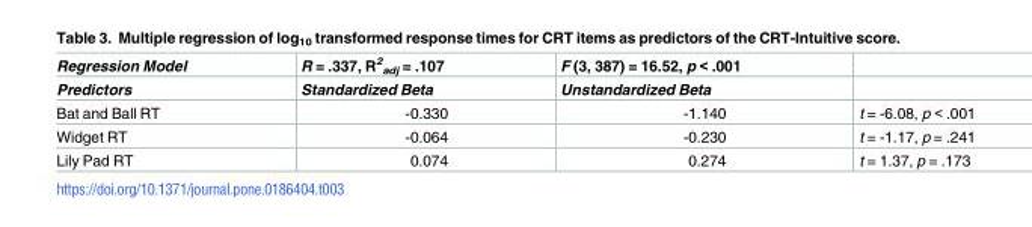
<table><thead><tr><td rowspan="2">Regression Model Predictors</td><td rowspan="2">R = .337, R<sup>2</sup> <sub>adj</sub> = .107 Standardized Beta</td><td rowspan="2">F (3, 387) = 16.52, p &lt; .001 Unstandardized Beta</td><td rowspan="2"></td></tr><tr></tr></thead><tbody><tr><td>Bat and Ball RT</td><td>-0.330</td><td>-1.140</td><td>t = -6.08, p &lt; .001</td></tr><tr><td>Widget RT</td><td>-0.064</td><td>-0.230</td><td>t = -1.17, p = .241</td></tr><tr><td>Lily Pad RT</td><td>0.074</td><td>0.274</td><td>t = 1.37, p = .173</td></tr></tbody></table>